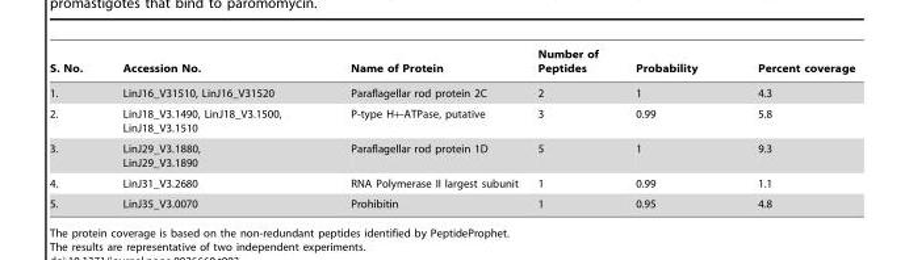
<table><thead><tr><td>S. No.</td><td>Accession No.</td><td>Name of Protein</td><td>Number of Peptides</td><td>Probability</td><td>Percent coverage</td></tr></thead><tbody><tr><td>1.</td><td>LinJ16_V31510, LinJ16_V31520</td><td>Paraflagellar rod protein 2C</td><td>2</td><td>1</td><td>4.3</td></tr><tr><td>2.</td><td>LinJ18_V3.1490, LinJ18_V3.1500, LinJ18_V3.1510</td><td>P-type H+-ATPase, putative</td><td>3</td><td>0.99</td><td>5.8</td></tr><tr><td>3.</td><td>LinJ29_V3.1880, LinJ29_V3.1890</td><td>Paraflagellar rod protein 1D</td><td>5</td><td>1</td><td>9.3</td></tr><tr><td>4.</td><td>LinJ31_V3.2680</td><td>RNA Polymerase II largest subunit</td><td>1</td><td>0.99</td><td>1.1</td></tr><tr><td>5.</td><td>LinJ35_V3.0070</td><td>Prohibitin</td><td>1</td><td>0.95</td><td>4.8</td></tr></tbody></table>